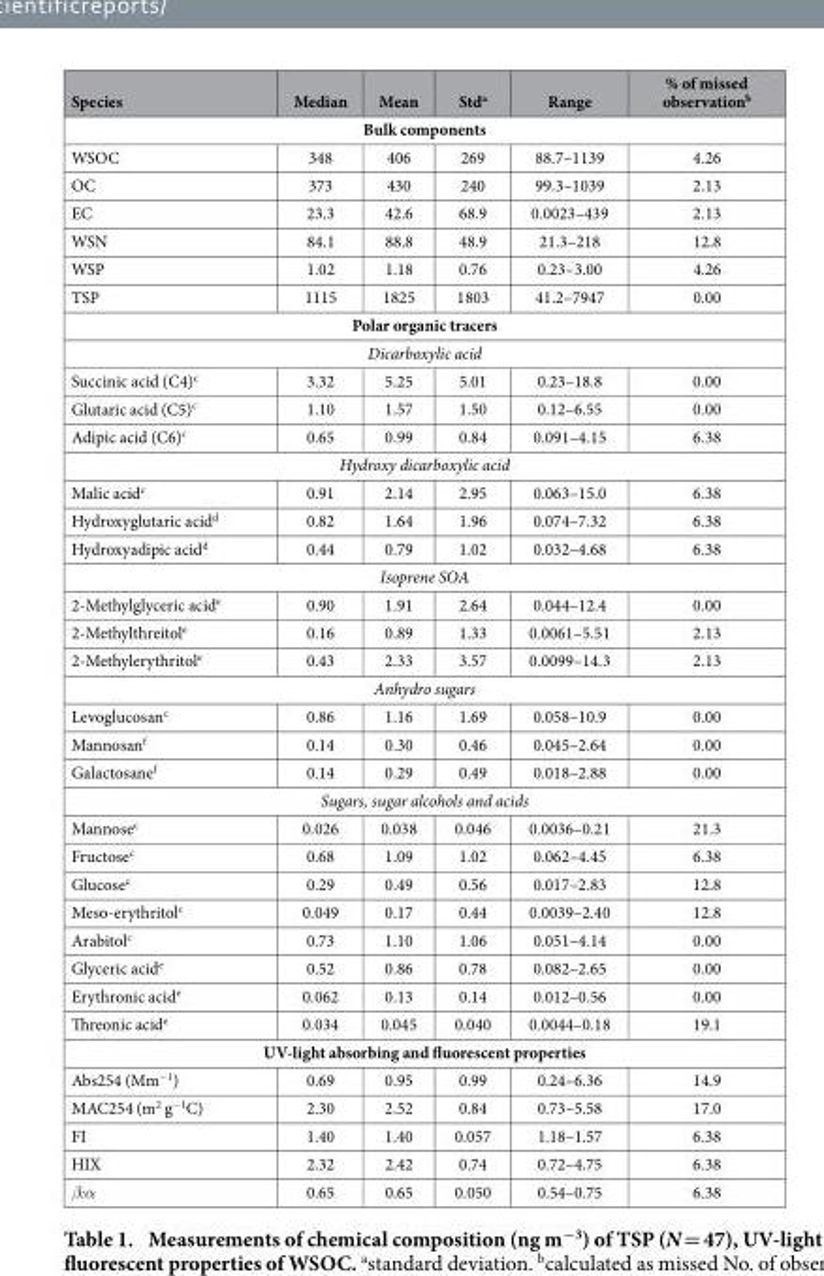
<table><thead><tr><td>Species</td><td>Median</td><td>Mean</td><td>Std<sup>a</sup></td><td>Range</td><td>% of missed observation<sup>b</sup></td></tr></thead><tbody><tr><td colspan="6">Bulk components</td></tr><tr><td>WSOC</td><td>348</td><td>406</td><td>269</td><td>88.7–1139</td><td>4.26</td></tr><tr><td>OC</td><td>373</td><td>430</td><td>240</td><td>99.3–1039</td><td>2.13</td></tr><tr><td>EC</td><td>23.3</td><td>42.6</td><td>68.9</td><td>0.0023–439</td><td>2.13</td></tr><tr><td>WSN</td><td>84.1</td><td>88.8</td><td>48.9</td><td>21.3–218</td><td>12.8</td></tr><tr><td>WSP</td><td>1.02</td><td>1.18</td><td>0.76</td><td>0.23–3.00</td><td>4.26</td></tr><tr><td>TSP</td><td>1115</td><td>1825</td><td>1803</td><td>41.2–7947</td><td>0.00</td></tr><tr><td colspan="6">Polar organic tracers</td></tr><tr><td colspan="6">Dicarboxylic acid</td></tr><tr><td>Succinic acid (C4)<sup>c</sup></td><td>3.32</td><td>5.25</td><td>5.01</td><td>0.23–18.8</td><td>0.00</td></tr><tr><td>Glutaric acid (C5)<sup>c</sup></td><td>1.10</td><td>1.57</td><td>1.50</td><td>0.12–6.55</td><td>0.00</td></tr><tr><td>Adipic acid (C6)<sup>c</sup></td><td>0.65</td><td>0.99</td><td>0.84</td><td>0.091–4.15</td><td>6.38</td></tr><tr><td colspan="6">Hydroxy dicarboxylic acid</td></tr><tr><td>Malic acid<sup>c</sup></td><td>0.91</td><td>2.14</td><td>2.95</td><td>0.063–15.0</td><td>6.38</td></tr><tr><td>Hydroxyglutaric acid<sup>d</sup></td><td>0.82</td><td>1.64</td><td>1.96</td><td>0.074–7.32</td><td>6.38</td></tr><tr><td>Hydroxyadipic acid<sup>d</sup></td><td>0.44</td><td>0.79</td><td>1.02</td><td>0.032–4.68</td><td>6.38</td></tr><tr><td colspan="6">Isoprene SOA</td></tr><tr><td>2-Methylglyceric acid<sup>e</sup></td><td>0.90</td><td>1.91</td><td>2.64</td><td>0.044–12.4</td><td>0.00</td></tr><tr><td>2-Methylthreitol<sup>e</sup></td><td>0.16</td><td>0.89</td><td>1.33</td><td>0.0061–5.51</td><td>2.13</td></tr><tr><td>2-Methylerythritol<sup>e</sup></td><td>0.43</td><td>2.33</td><td>3.57</td><td>0.0099–14.3</td><td>2.13</td></tr><tr><td colspan="6">Anhydro sugars</td></tr><tr><td>Levoglucosan<sup>c</sup></td><td>0.86</td><td>1.16</td><td>1.69</td><td>0.058–10.9</td><td>0.00</td></tr><tr><td>Mannosan<sup>f</sup></td><td>0.14</td><td>0.30</td><td>0.46</td><td>0.045–2.64</td><td>0.00</td></tr><tr><td>Galactosane<sup>f</sup></td><td>0.14</td><td>0.29</td><td>0.49</td><td>0.018–2.88</td><td>0.00</td></tr><tr><td colspan="6">Sugars, sugar alcohols and acids</td></tr><tr><td>Mannose<sup>c</sup></td><td>0.026</td><td>0.038</td><td>0.046</td><td>0.0036–0.21</td><td>21.3</td></tr><tr><td>Fructose<sup>c</sup></td><td>0.68</td><td>1.09</td><td>1.02</td><td>0.062–4.45</td><td>6.38</td></tr><tr><td>Glucose<sup>c</sup></td><td>0.29</td><td>0.49</td><td>0.56</td><td>0.017–2.83</td><td>12.8</td></tr><tr><td>Meso-erythritol<sup>c</sup></td><td>0.049</td><td>0.17</td><td>0.44</td><td>0.0039–2.40</td><td>12.8</td></tr><tr><td>Arabitol<sup>c</sup></td><td>0.73</td><td>1.10</td><td>1.06</td><td>0.051–4.14</td><td>0.00</td></tr><tr><td>Glyceric acid<sup>e</sup></td><td>0.52</td><td>0.86</td><td>0.78</td><td>0.082–2.65</td><td>0.00</td></tr><tr><td>Erythronic acid<sup>e</sup></td><td>0.062</td><td>0.13</td><td>0.14</td><td>0.012–0.56</td><td>0.00</td></tr><tr><td>Threonic acid<sup>e</sup></td><td>0.034</td><td>0.045</td><td>0.040</td><td>0.0044–0.18</td><td>19.1</td></tr><tr><td colspan="6">UV-light absorbing and fluorescent properties</td></tr><tr><td>Abs254 (Mm<sup>−1</sup>)</td><td>0.69</td><td>0.95</td><td>0.99</td><td>0.24–6.36</td><td>14.9</td></tr><tr><td>MAC254 (m<sup>2</sup> g<sup>−1</sup>C)</td><td>2.30</td><td>2.52</td><td>0.84</td><td>0.73–5.58</td><td>17.0</td></tr><tr><td>FI</td><td>1.40</td><td>1.40</td><td>0.057</td><td>1.18–1.57</td><td>6.38</td></tr><tr><td>HIX</td><td>2.32</td><td>2.42</td><td>0.74</td><td>0.72–4.75</td><td>6.38</td></tr><tr><td>β:α</td><td>0.65</td><td>0.65</td><td>0.050</td><td>0.54–0.75</td><td>6.38</td></tr></tbody></table>